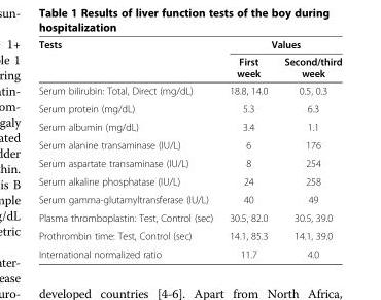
<table><thead><tr><td rowspan="2">Tests</td><td colspan="2">Values</td></tr><tr><td>First week</td><td>Second/third week</td></tr></thead><tbody><tr><td>Serum bilirubin: Total, Direct (mg/dL)</td><td>18.8, 14.0</td><td>0.5, 0.3</td></tr><tr><td>Serum protein (mg/dL)</td><td>5.3</td><td>6.3</td></tr><tr><td>Serum albumin (mg/dL)</td><td>3.4</td><td>1.1</td></tr><tr><td>Serum alanine transaminase (IU/L)</td><td>6</td><td>176</td></tr><tr><td>Serum aspartate transaminase (IU/L)</td><td>8</td><td>254</td></tr><tr><td>Serum alkaline phosphatase (IU/L)</td><td>24</td><td>258</td></tr><tr><td>Serum gamma-glutamyltransferase (IU/L)</td><td>40</td><td>49</td></tr><tr><td>Plasma thromboplastin: Test, Control (sec)</td><td>30.5, 82.0</td><td>30.5, 39.0</td></tr><tr><td>Prothrombin time: Test, Control (sec)</td><td>14.1, 85.3</td><td>14.1, 39.0</td></tr><tr><td>International normalized ratio</td><td>11.7</td><td>4.0</td></tr></tbody></table>